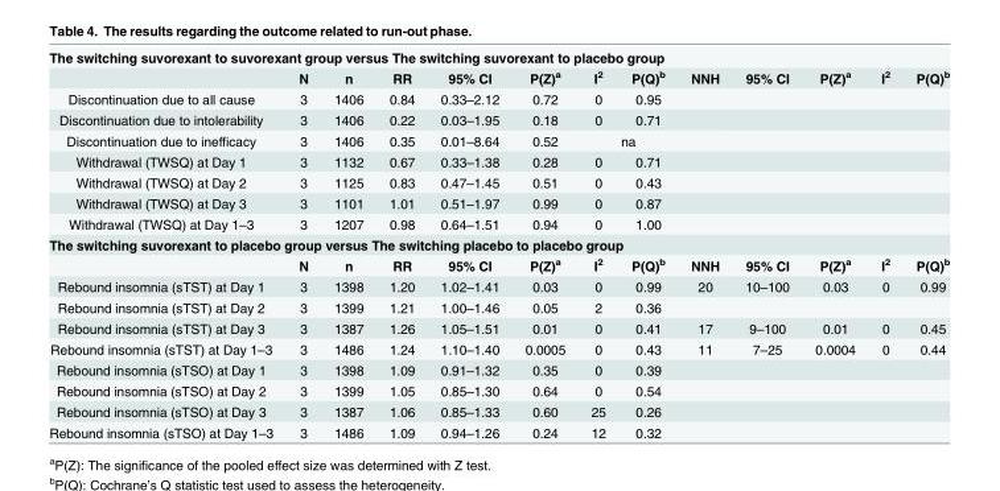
<table><tbody><tr><td colspan="13">The switching suvorexant to suvorexant group versus The switching suvorexant to placebo group</td></tr><tr><td></td><td>N</td><td>n</td><td>RR</td><td>95% CI</td><td>P(Z)<sup>a</sup></td><td>I<sup>2</sup></td><td>P(Q)<sup>b</sup></td><td>NNH</td><td>95% CI</td><td>P(Z)<sup>a</sup></td><td>I<sup>2</sup></td><td>P(Q)<sup>b</sup></td></tr><tr><td>Discontinuation due to all cause</td><td>3</td><td>1406</td><td>0.84</td><td>0.33–2.12</td><td>0.72</td><td>0</td><td>0.95</td><td></td><td></td><td></td><td></td><td></td></tr><tr><td>Discontinuation due to intolerability</td><td>3</td><td>1406</td><td>0.22</td><td>0.03–1.95</td><td>0.18</td><td>0</td><td>0.71</td><td></td><td></td><td></td><td></td><td></td></tr><tr><td>Discontinuation due to inefficacy</td><td>3</td><td>1406</td><td>0.35</td><td>0.01–8.64</td><td>0.52</td><td colspan="2">na</td><td></td><td></td><td></td><td></td><td></td></tr><tr><td>Withdrawal (TWSQ) at Day 1</td><td>3</td><td>1132</td><td>0.67</td><td>0.33–1.38</td><td>0.28</td><td>0</td><td>0.71</td><td></td><td></td><td></td><td></td><td></td></tr><tr><td>Withdrawal (TWSQ) at Day 2</td><td>3</td><td>1125</td><td>0.83</td><td>0.47–1.45</td><td>0.51</td><td>0</td><td>0.43</td><td></td><td></td><td></td><td></td><td></td></tr><tr><td>Withdrawal (TWSQ) at Day 3</td><td>3</td><td>1101</td><td>1.01</td><td>0.51–1.97</td><td>0.99</td><td>0</td><td>0.87</td><td></td><td></td><td></td><td></td><td></td></tr><tr><td>Withdrawal (TWSQ) at Day 1–3</td><td>3</td><td>1207</td><td>0.98</td><td>0.64–1.51</td><td>0.94</td><td>0</td><td>1.00</td><td></td><td></td><td></td><td></td><td></td></tr><tr><td colspan="13">The switching suvorexant to placebo group versus The switching placebo to placebo group</td></tr><tr><td></td><td>N</td><td>n</td><td>RR</td><td>95% CI</td><td>P(Z)<sup>a</sup></td><td>I<sup>2</sup></td><td>P(Q)<sup>b</sup></td><td>NNH</td><td>95% CI</td><td>P(Z)<sup>a</sup></td><td>I<sup>2</sup></td><td>P(Q)<sup>b</sup></td></tr><tr><td>Rebound insomnia (sTST) at Day 1</td><td>3</td><td>1398</td><td>1.20</td><td>1.02–1.41</td><td>0.03</td><td>0</td><td>0.99</td><td>20</td><td>10–100</td><td>0.03</td><td>0</td><td>0.99</td></tr><tr><td>Rebound insomnia (sTST) at Day 2</td><td>3</td><td>1399</td><td>1.21</td><td>1.00–1.46</td><td>0.05</td><td>2</td><td>0.36</td><td></td><td></td><td></td><td></td><td></td></tr><tr><td>Rebound insomnia (sTST) at Day 3</td><td>3</td><td>1387</td><td>1.26</td><td>1.05–1.51</td><td>0.01</td><td>0</td><td>0.41</td><td>17</td><td>9–100</td><td>0.01</td><td>0</td><td>0.45</td></tr><tr><td>Rebound insomnia (sTST) at Day 1–3</td><td>3</td><td>1486</td><td>1.24</td><td>1.10–1.40</td><td>0.0005</td><td>0</td><td>0.43</td><td>11</td><td>7–25</td><td>0.0004</td><td>0</td><td>0.44</td></tr><tr><td>Rebound insomnia (sTSO) at Day 1</td><td>3</td><td>1398</td><td>1.09</td><td>0.91–1.32</td><td>0.35</td><td>0</td><td>0.39</td><td></td><td></td><td></td><td></td><td></td></tr><tr><td>Rebound insomnia (sTSO) at Day 2</td><td>3</td><td>1399</td><td>1.05</td><td>0.85–1.30</td><td>0.64</td><td>0</td><td>0.54</td><td></td><td></td><td></td><td></td><td></td></tr><tr><td>Rebound insomnia (sTSO) at Day 3</td><td>3</td><td>1387</td><td>1.06</td><td>0.85–1.33</td><td>0.60</td><td>25</td><td>0.26</td><td></td><td></td><td></td><td></td><td></td></tr><tr><td>Rebound insomnia (sTSO) at Day 1–3</td><td>3</td><td>1486</td><td>1.09</td><td>0.94–1.26</td><td>0.24</td><td>12</td><td>0.32</td><td></td><td></td><td></td><td></td><td></td></tr></tbody></table>